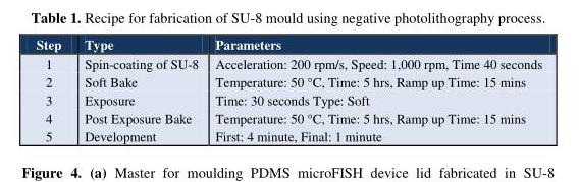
<table><thead><tr><td>Step</td><td>Type</td><td>Parameters</td></tr></thead><tbody><tr><td>1</td><td>Spin-coating of SU-8</td><td>Acceleration: 200 rpm/s, Speed: 1,000 rpm, Time 40 seconds</td></tr><tr><td>2</td><td>Soft Bake</td><td>Temperature: 50 °C, Time: 5 hrs, Ramp up Time: 15 mins</td></tr><tr><td>3</td><td>Exposure</td><td>Time: 30 seconds Type: Soft</td></tr><tr><td>4</td><td>Post Exposure Bake</td><td>Temperature: 50 °C, Time: 5 hrs, Ramp up Time: 15 mins</td></tr><tr><td>5</td><td>Development</td><td>First: 4 minute, Final: 1 minute</td></tr></tbody></table>